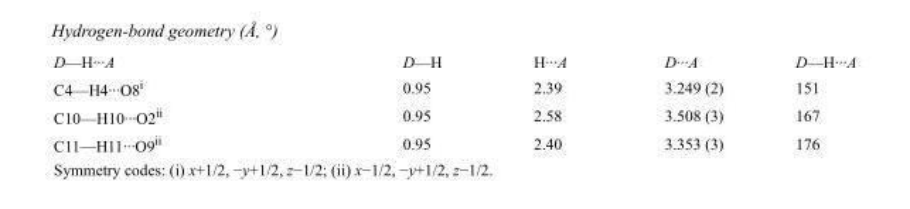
<table><tbody><tr><td>D—H···A</td><td>D—H</td><td>H···A</td><td>D···A</td><td>D—H···A</td></tr><tr><td>C4—H4···O8<sup>i</sup></td><td>0.95</td><td>2.39</td><td>3.249 (2)</td><td>151</td></tr><tr><td>C10—H10···O2<sup>ii</sup></td><td>0.95</td><td>2.58</td><td>3.508 (3)</td><td>167</td></tr><tr><td>C11—H11···O9<sup>ii</sup></td><td>0.95</td><td>2.40</td><td>3.353 (3)</td><td>176</td></tr></tbody></table>